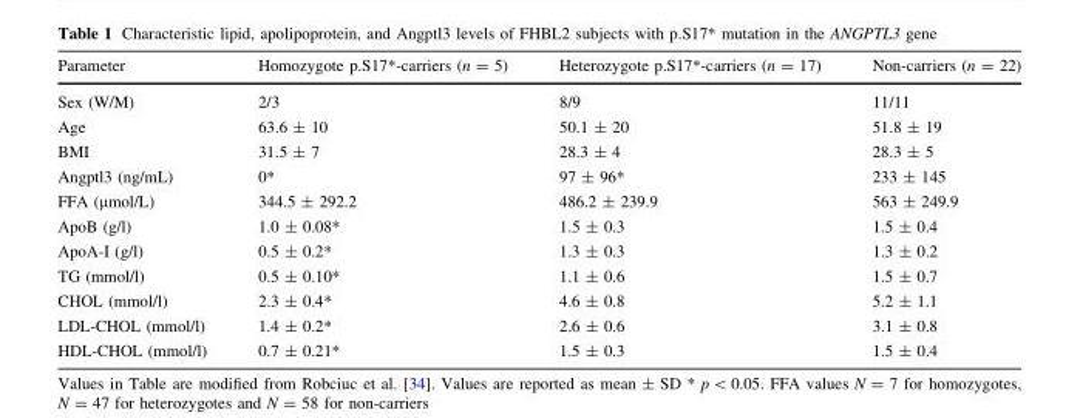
<table><thead><tr><td>Parameter</td><td>Homozygote p.S17*-carriers (n = 5)</td><td>Heterozygote p.S17*-carriers (n = 17)</td><td>Non-carriers (n = 22)</td></tr></thead><tbody><tr><td>Sex (W/M)</td><td>2/3</td><td>8/9</td><td>11/11</td></tr><tr><td>Age</td><td>63.6 ± 10</td><td>50.1 ± 20</td><td>51.8 ± 19</td></tr><tr><td>BMI</td><td>31.5 ± 7</td><td>28.3 ± 4</td><td>28.3 ± 5</td></tr><tr><td>Angptl3 (ng/mL)</td><td>0*</td><td>97 ± 96*</td><td>233 ± 145</td></tr><tr><td>FFA (µmol/L)</td><td>344.5 ± 292.2</td><td>486.2 ± 239.9</td><td>563 ± 249.9</td></tr><tr><td>ApoB (g/l)</td><td>1.0 ± 0.08*</td><td>1.5 ± 0.3</td><td>1.5 ± 0.4</td></tr><tr><td>ApoA-I (g/l)</td><td>0.5 ± 0.2*</td><td>1.3 ± 0.3</td><td>1.3 ± 0.2</td></tr><tr><td>TG (mmol/l)</td><td>0.5 ± 0.10*</td><td>1.1 ± 0.6</td><td>1.5 ± 0.7</td></tr><tr><td>CHOL (mmol/l)</td><td>2.3 ± 0.4*</td><td>4.6 ± 0.8</td><td>5.2 ± 1.1</td></tr><tr><td>LDL-CHOL (mmol/l)</td><td>1.4 ± 0.2*</td><td>2.6 ± 0.6</td><td>3.1 ± 0.8</td></tr><tr><td>HDL-CHOL (mmol/l)</td><td>0.7 ± 0.21*</td><td>1.5 ± 0.3</td><td>1.5 ± 0.4</td></tr></tbody></table>